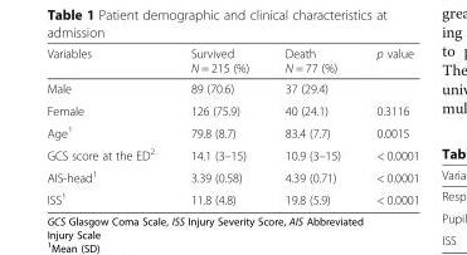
<table><thead><tr><td>Variables</td><td>Survived N = 215 (%)</td><td>Death N = 77 (%)</td><td>p value</td></tr></thead><tbody><tr><td>Male</td><td>89 (70.6)</td><td>37 (29.4)</td><td></td></tr><tr><td>Female</td><td>126 (75.9)</td><td>40 (24.1)</td><td>0.3116</td></tr><tr><td>Age<sup>1</sup></td><td>79.8 (8.7)</td><td>83.4 (7.7)</td><td>0.0015</td></tr><tr><td>GCS score at the ED<sup>2</sup></td><td>14.1 (3–15)</td><td>10.9 (3–15)</td><td>&lt; 0.0001</td></tr><tr><td>AIS-head<sup>1</sup></td><td>3.39 (0.58)</td><td>4.39 (0.71)</td><td>&lt; 0.0001</td></tr><tr><td>ISS<sup>1</sup></td><td>11.8 (4.8)</td><td>19.8 (5.9)</td><td>&lt; 0.0001</td></tr></tbody></table>